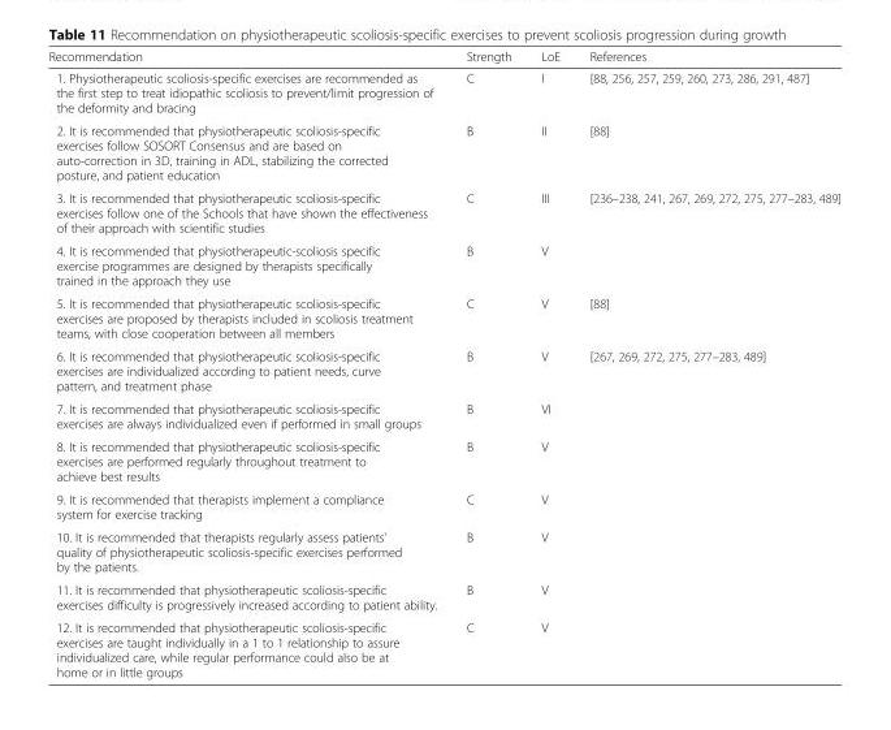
<table><thead><tr><td>Recommendation</td><td>Strength</td><td>LoE</td><td>References</td></tr></thead><tbody><tr><td>1. Physiotherapeutic scoliosis-specific exercises are recommended as the first step to treat idiopathic scoliosis to prevent/limit progression of the deformity and bracing</td><td>C</td><td>I</td><td>[88, 256, 257, 259, 260, 273, 286, 291, 487]</td></tr><tr><td>2. It is recommended that physiotherapeutic scoliosis-specific exercises follow SOSORT Consensus and are based on auto-correction in 3D, training in ADL, stabilizing the corrected posture, and patient education</td><td>B</td><td>II</td><td>[88]</td></tr><tr><td>3. It is recommended that physiotherapeutic scoliosis-specific exercises follow one of the Schools that have shown the effectiveness of their approach with scientific studies</td><td>C</td><td>III</td><td>[236–238, 241, 267, 269, 272, 275, 277–283, 489]</td></tr><tr><td>4. It is recommended that physiotherapeutic-scoliosis specific exercise programmes are designed by therapists specifically trained in the approach they use</td><td>B</td><td>V</td><td></td></tr><tr><td>5. It is recommended that physiotherapeutic scoliosis-specific exercises are proposed by therapists included in scoliosis treatment teams, with close cooperation between all members</td><td>C</td><td>V</td><td>[88]</td></tr><tr><td>6. It is recommended that physiotherapeutic scoliosis-specific exercises are individualized according to patient needs, curve pattern, and treatment phase</td><td>B</td><td>V</td><td>[267, 269, 272, 275, 277–283, 489]</td></tr><tr><td>7. It is recommended that physiotherapeutic scoliosis-specific exercises are always individualized even if performed in small groups</td><td>B</td><td>VI</td><td></td></tr><tr><td>8. It is recommended that physiotherapeutic scoliosis-specific exercises are performed regularly throughout treatment to achieve best results</td><td>B</td><td>V</td><td></td></tr><tr><td>9. It is recommended that therapists implement a compliance system for exercise tracking</td><td>C</td><td>V</td><td></td></tr><tr><td>10. It is recommended that therapists regularly assess patients’ quality of physiotherapeutic scoliosis-specific exercises performed by the patients.</td><td>B</td><td>V</td><td></td></tr><tr><td>11. It is recommended that physiotherapeutic scoliosis-specific exercises difficulty is progressively increased according to patient ability.</td><td>B</td><td>V</td><td></td></tr><tr><td>12. It is recommended that physiotherapeutic scoliosis-specific exercises are taught individually in a 1 to 1 relationship to assure individualized care, while regular performance could also be at home or in little groups</td><td>C</td><td>V</td><td></td></tr></tbody></table>